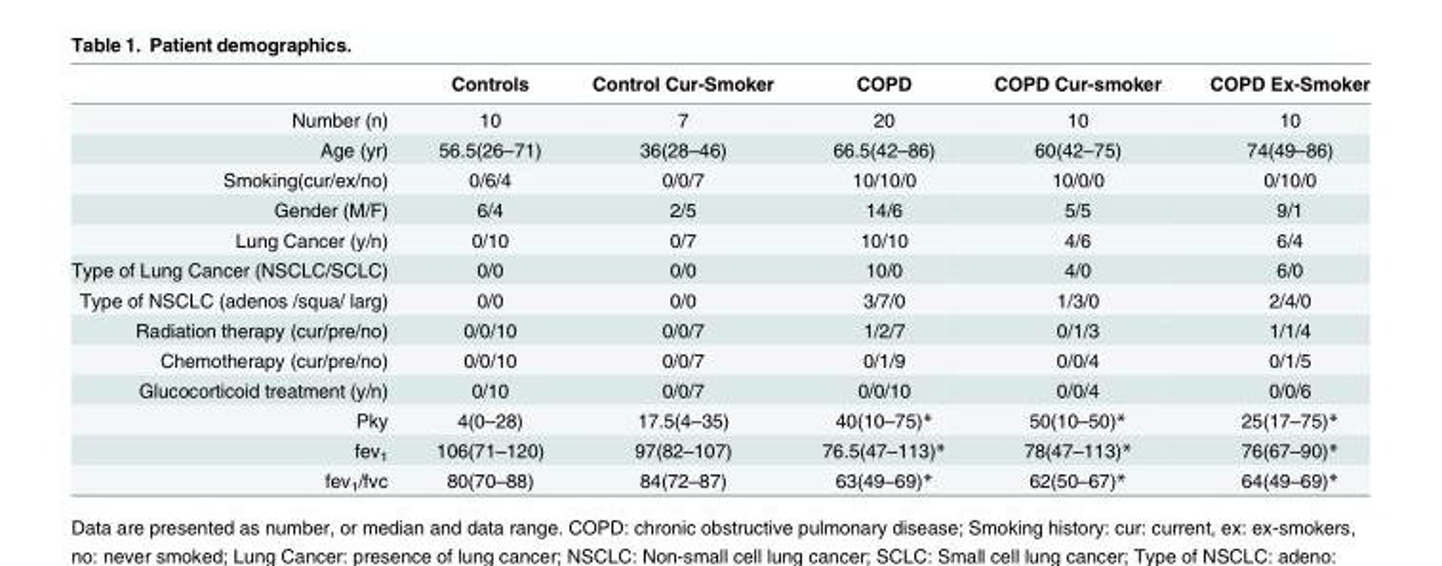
<table><thead><tr><td></td><td>Controls</td><td>Control Cur-Smoker</td><td>COPD</td><td>COPD Cur-smoker</td><td>COPD Ex-Smoker</td></tr></thead><tbody><tr><td>Number (n)</td><td>10</td><td>7</td><td>20</td><td>10</td><td>10</td></tr><tr><td>Age (yr)</td><td>56.5(26–71)</td><td>36(28–46)</td><td>66.5(42–86)</td><td>60(42–75)</td><td>74(49–86)</td></tr><tr><td>Smoking(cur/ex/no)</td><td>0/6/4</td><td>0/0/7</td><td>10/10/0</td><td>10/0/0</td><td>0/10/0</td></tr><tr><td>Gender (M/F)</td><td>6/4</td><td>2/5</td><td>14/6</td><td>5/5</td><td>9/1</td></tr><tr><td>Lung Cancer (y/n)</td><td>0/10</td><td>0/7</td><td>10/10</td><td>4/6</td><td>6/4</td></tr><tr><td>Type of Lung Cancer (NSCLC/SCLC)</td><td>0/0</td><td>0/0</td><td>10/0</td><td>4/0</td><td>6/0</td></tr><tr><td>Type of NSCLC (adenos /squa/ larg)</td><td>0/0</td><td>0/0</td><td>3/7/0</td><td>1/3/0</td><td>2/4/0</td></tr><tr><td>Radiation therapy (cur/pre/no)</td><td>0/0/10</td><td>0/0/7</td><td>1/2/7</td><td>0/1/3</td><td>1/1/4</td></tr><tr><td>Chemotherapy (cur/pre/no)</td><td>0/0/10</td><td>0/0/7</td><td>0/1/9</td><td>0/0/4</td><td>0/1/5</td></tr><tr><td>Glucocorticoid treatment (y/n)</td><td>0/10</td><td>0/0/7</td><td>0/0/10</td><td>0/0/4</td><td>0/0/6</td></tr><tr><td>Pky</td><td>4(0–28)</td><td>17.5(4–35)</td><td>40(10–75)*</td><td>50(10–50)*</td><td>25(17–75)*</td></tr><tr><td>fev<sub>1</sub></td><td>106(71–120)</td><td>97(82–107)</td><td>76.5(47–113)*</td><td>78(47–113)*</td><td>76(67–90)*</td></tr><tr><td>fev<sub>1</sub>/fvc</td><td>80(70–88)</td><td>84(72–87)</td><td>63(49–69)*</td><td>62(50–67)*</td><td>64(49–69)*</td></tr></tbody></table>